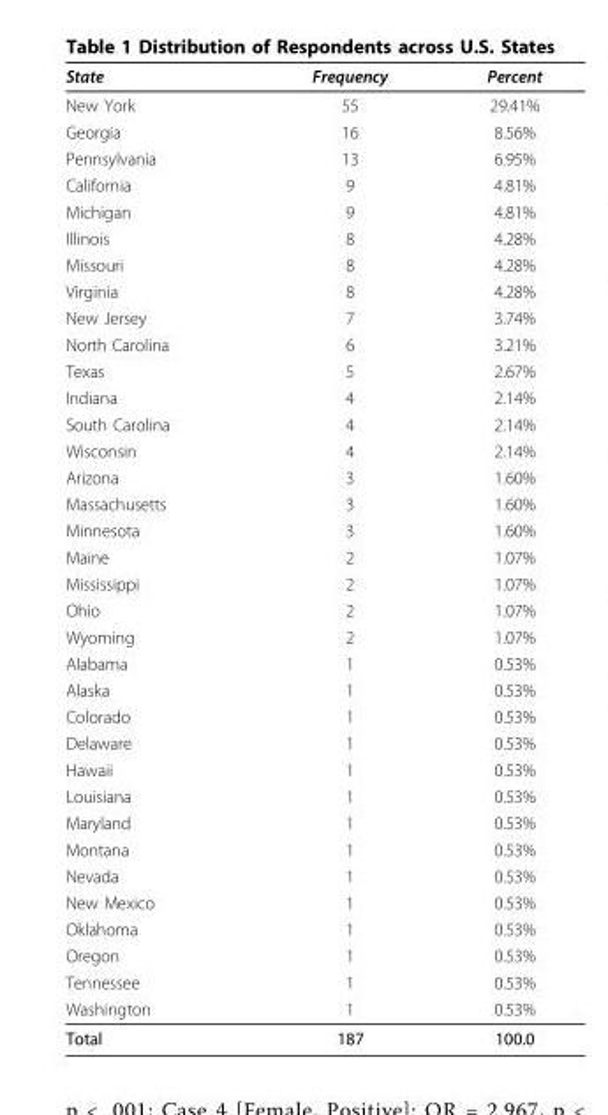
<table><thead><tr><td>State</td><td>Frequency</td><td>Percent</td></tr></thead><tbody><tr><td>New York</td><td>55</td><td>29.41%</td></tr><tr><td>Georgia</td><td>16</td><td>8.56%</td></tr><tr><td>Pennsylvania</td><td>13</td><td>6.95%</td></tr><tr><td>California</td><td>9</td><td>4.81%</td></tr><tr><td>Michigan</td><td>9</td><td>4.81%</td></tr><tr><td>Illinois</td><td>8</td><td>4.28%</td></tr><tr><td>Missouri</td><td>8</td><td>4.28%</td></tr><tr><td>Virginia</td><td>8</td><td>4.28%</td></tr><tr><td>New Jersey</td><td>7</td><td>3.74%</td></tr><tr><td>North Carolina</td><td>6</td><td>3.21%</td></tr><tr><td>Texas</td><td>5</td><td>2.67%</td></tr><tr><td>Indiana</td><td>4</td><td>2.14%</td></tr><tr><td>South Carolina</td><td>4</td><td>2.14%</td></tr><tr><td>Wisconsin</td><td>4</td><td>2.14%</td></tr><tr><td>Arizona</td><td>3</td><td>1.60%</td></tr><tr><td>Massachusetts</td><td>3</td><td>1.60%</td></tr><tr><td>Minnesota</td><td>3</td><td>1.60%</td></tr><tr><td>Maine</td><td>2</td><td>1.07%</td></tr><tr><td>Mississippi</td><td>2</td><td>1.07%</td></tr><tr><td>Ohio</td><td>2</td><td>1.07%</td></tr><tr><td>Wyoming</td><td>2</td><td>1.07%</td></tr><tr><td>Alabama</td><td>1</td><td>0.53%</td></tr><tr><td>Alaska</td><td>1</td><td>0.53%</td></tr><tr><td>Colorado</td><td>1</td><td>0.53%</td></tr><tr><td>Delaware</td><td>1</td><td>0.53%</td></tr><tr><td>Hawaii</td><td>1</td><td>0.53%</td></tr><tr><td>Louisiana</td><td>1</td><td>0.53%</td></tr><tr><td>Maryland</td><td>1</td><td>0.53%</td></tr><tr><td>Montana</td><td>1</td><td>0.53%</td></tr><tr><td>Nevada</td><td>1</td><td>0.53%</td></tr><tr><td>New Mexico</td><td>1</td><td>0.53%</td></tr><tr><td>Oklahoma</td><td>1</td><td>0.53%</td></tr><tr><td>Oregon</td><td>1</td><td>0.53%</td></tr><tr><td>Tennessee</td><td>1</td><td>0.53%</td></tr><tr><td>Washington</td><td>1</td><td>0.53%</td></tr><tr><td>Total</td><td>187</td><td>100.0</td></tr></tbody></table>